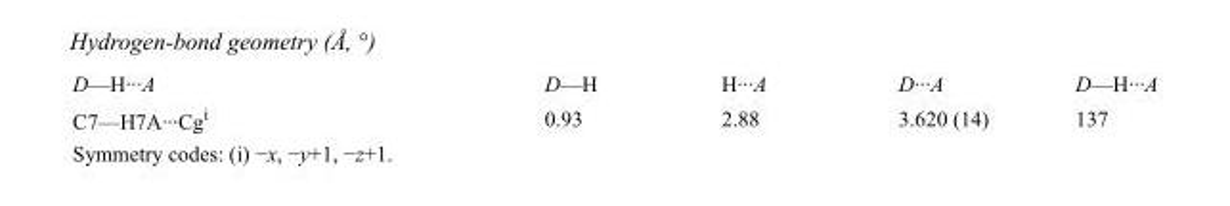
<table><tbody><tr><td>D—H···A</td><td>D—H</td><td>H···A</td><td>D···A</td><td>D—H···A</td></tr><tr><td>C7—H7A···Cg<sup>i</sup></td><td>0.93</td><td>2.88</td><td>3.620 (14)</td><td>137</td></tr></tbody></table>